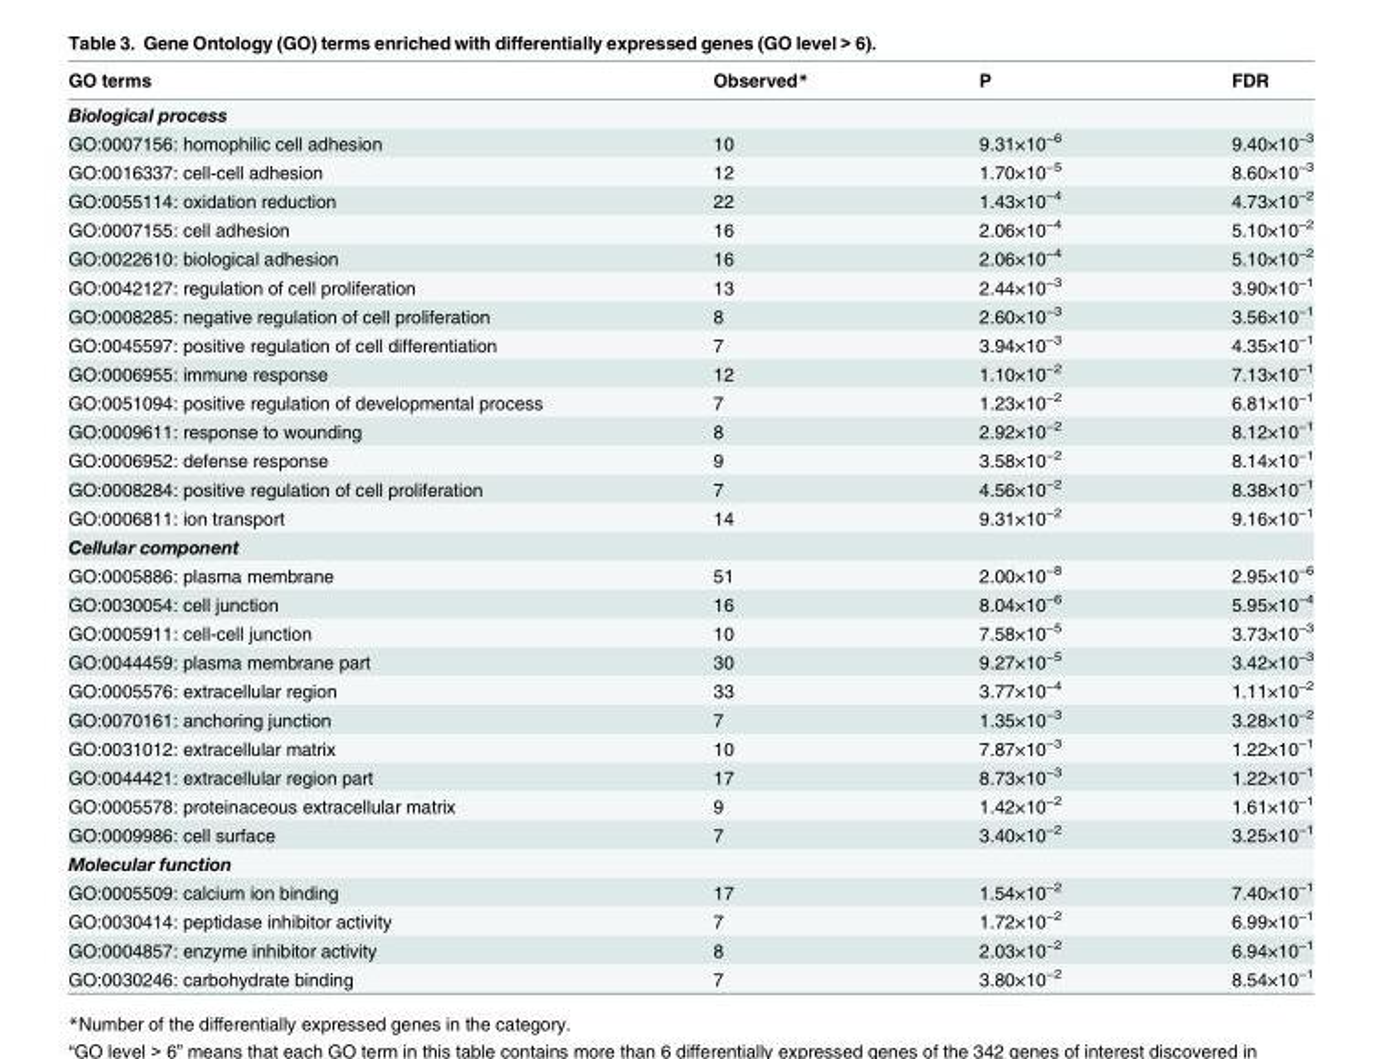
<table><thead><tr><td>GO terms</td><td>Observed*</td><td>P</td><td>FDR</td></tr></thead><tbody><tr><td colspan="4">Biological process</td></tr><tr><td>GO:0007156: homophilic cell adhesion</td><td>10</td><td>9.31×10<sup>−6</sup></td><td>9.40×10<sup>−3</sup></td></tr><tr><td>GO:0016337: cell-cell adhesion</td><td>12</td><td>1.70×10<sup>−5</sup></td><td>8.60×10<sup>−3</sup></td></tr><tr><td>GO:0055114: oxidation reduction</td><td>22</td><td>1.43×10<sup>−4</sup></td><td>4.73×10<sup>−2</sup></td></tr><tr><td>GO:0007155: cell adhesion</td><td>16</td><td>2.06×10<sup>−4</sup></td><td>5.10×10<sup>−2</sup></td></tr><tr><td>GO:0022610: biological adhesion</td><td>16</td><td>2.06×10<sup>−4</sup></td><td>5.10×10<sup>−2</sup></td></tr><tr><td>GO:0042127: regulation of cell proliferation</td><td>13</td><td>2.44×10<sup>−3</sup></td><td>3.90×10<sup>−1</sup></td></tr><tr><td>GO:0008285: negative regulation of cell proliferation</td><td>8</td><td>2.60×10<sup>−3</sup></td><td>3.56×10<sup>−1</sup></td></tr><tr><td>GO:0045597: positive regulation of cell differentiation</td><td>7</td><td>3.94×10<sup>−3</sup></td><td>4.35×10<sup>−1</sup></td></tr><tr><td>GO:0006955: immune response</td><td>12</td><td>1.10×10<sup>−2</sup></td><td>7.13×10<sup>−1</sup></td></tr><tr><td>GO:0051094: positive regulation of developmental process</td><td>7</td><td>1.23×10<sup>−2</sup></td><td>6.81×10<sup>−1</sup></td></tr><tr><td>GO:0009611: response to wounding</td><td>8</td><td>2.92×10<sup>−2</sup></td><td>8.12×10<sup>−1</sup></td></tr><tr><td>GO:0006952: defense response</td><td>9</td><td>3.58×10<sup>−2</sup></td><td>8.14×10<sup>−1</sup></td></tr><tr><td>GO:0008284: positive regulation of cell proliferation</td><td>7</td><td>4.56×10<sup>−2</sup></td><td>8.38×10<sup>−1</sup></td></tr><tr><td>GO:0006811: ion transport</td><td>14</td><td>9.31×10<sup>−2</sup></td><td>9.16×10<sup>−1</sup></td></tr><tr><td colspan="4">Cellular component</td></tr><tr><td>GO:0005886: plasma membrane</td><td>51</td><td>2.00×10<sup>−8</sup></td><td>2.95×10<sup>−6</sup></td></tr><tr><td>GO:0030054: cell junction</td><td>16</td><td>8.04×10<sup>−6</sup></td><td>5.95×10<sup>−4</sup></td></tr><tr><td>GO:0005911: cell-cell junction</td><td>10</td><td>7.58×10<sup>−5</sup></td><td>3.73×10<sup>−3</sup></td></tr><tr><td>GO:0044459: plasma membrane part</td><td>30</td><td>9.27×10<sup>−5</sup></td><td>3.42×10<sup>−3</sup></td></tr><tr><td>GO:0005576: extracellular region</td><td>33</td><td>3.77×10<sup>−4</sup></td><td>1.11×10<sup>−2</sup></td></tr><tr><td>GO:0070161: anchoring junction</td><td>7</td><td>1.35×10<sup>−3</sup></td><td>3.28×10<sup>−2</sup></td></tr><tr><td>GO:0031012: extracellular matrix</td><td>10</td><td>7.87×10<sup>−3</sup></td><td>1.22×10<sup>−1</sup></td></tr><tr><td>GO:0044421: extracellular region part</td><td>17</td><td>8.73×10<sup>−3</sup></td><td>1.22×10<sup>−1</sup></td></tr><tr><td>GO:0005578: proteinaceous extracellular matrix</td><td>9</td><td>1.42×10<sup>−2</sup></td><td>1.61×10<sup>−1</sup></td></tr><tr><td>GO:0009986: cell surface</td><td>7</td><td>3.40×10<sup>−2</sup></td><td>3.25×10<sup>−1</sup></td></tr><tr><td colspan="4">Molecular function</td></tr><tr><td>GO:0005509: calcium ion binding</td><td>17</td><td>1.54×10<sup>−2</sup></td><td>7.40×10<sup>−1</sup></td></tr><tr><td>GO:0030414: peptidase inhibitor activity</td><td>7</td><td>1.72×10<sup>−2</sup></td><td>6.99×10<sup>−1</sup></td></tr><tr><td>GO:0004857: enzyme inhibitor activity</td><td>8</td><td>2.03×10<sup>−2</sup></td><td>6.94×10<sup>−1</sup></td></tr><tr><td>GO:0030246: carbohydrate binding</td><td>7</td><td>3.80×10<sup>−2</sup></td><td>8.54×10<sup>−1</sup></td></tr></tbody></table>